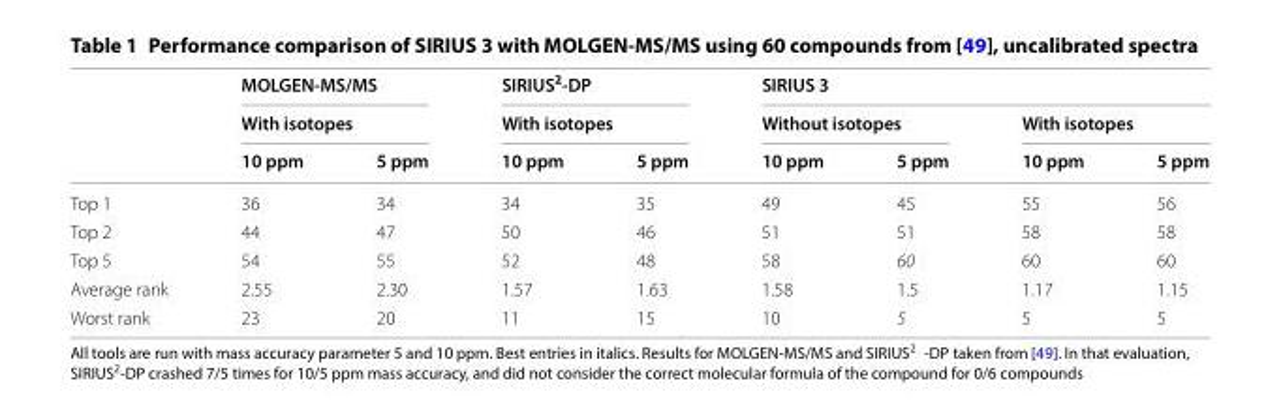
<table><thead><tr><td rowspan="3"></td><td rowspan="2" colspan="2">MOLGEN-MS/MS With isotopes</td><td rowspan="2" colspan="2">SIRIUS<sup>2</sup>-DP With isotopes</td><td colspan="4">SIRIUS 3</td></tr><tr><td colspan="2">Without isotopes</td><td colspan="2">With isotopes</td></tr><tr><td>10 ppm</td><td>5 ppm</td><td>10 ppm</td><td>5 ppm</td><td>10 ppm</td><td>5 ppm</td><td>10 ppm</td><td>5 ppm</td></tr></thead><tbody><tr><td>Top 1</td><td>36</td><td>34</td><td>34</td><td>35</td><td>49</td><td>45</td><td>55</td><td>56</td></tr><tr><td>Top 2</td><td>44</td><td>47</td><td>50</td><td>46</td><td>51</td><td>51</td><td>58</td><td>58</td></tr><tr><td>Top 5</td><td>54</td><td>55</td><td>52</td><td>48</td><td>58</td><td>60</td><td>60</td><td>60</td></tr><tr><td>Average rank</td><td>2.55</td><td>2.30</td><td>1.57</td><td>1.63</td><td>1.58</td><td>1.5</td><td>1.17</td><td>1.15</td></tr><tr><td>Worst rank</td><td>23</td><td>20</td><td>11</td><td>15</td><td>10</td><td>5</td><td>5</td><td>5</td></tr></tbody></table>